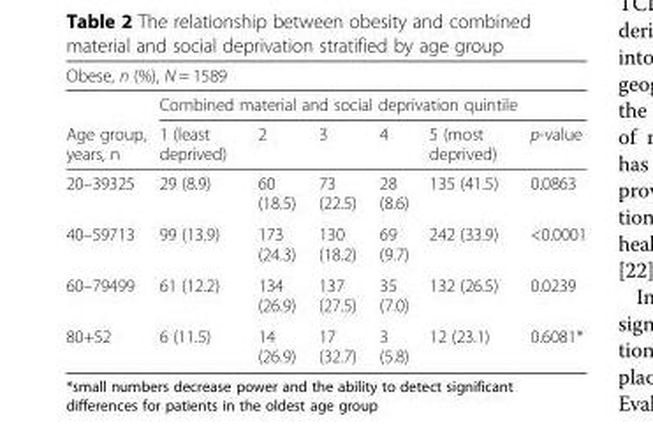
<table><thead><tr><td colspan="7">Obese, n (%), N = 1589</td></tr><tr><td rowspan="2">Age group, years, n</td><td colspan="6">Combined material and social deprivation quintile</td></tr><tr><td>1 (least deprived)</td><td>2</td><td>3</td><td>4</td><td>5 (most deprived)</td><td>p-value</td></tr></thead><tbody><tr><td>20–39325</td><td>29 (8.9)</td><td>60 (18.5)</td><td>73 (22.5)</td><td>28 (8.6)</td><td>135 (41.5)</td><td>0.0863</td></tr><tr><td>40–59713</td><td>99 (13.9)</td><td>173 (24.3)</td><td>130 (18.2)</td><td>69 (9.7)</td><td>242 (33.9)</td><td>&lt;0.0001</td></tr><tr><td>60–79499</td><td>61 (12.2)</td><td>134 (26.9)</td><td>137 (27.5)</td><td>35 (7.0)</td><td>132 (26.5)</td><td>0.0239</td></tr><tr><td>80+52</td><td>6 (11.5)</td><td>14 (26.9)</td><td>17 (32.7)</td><td>3 (5.8)</td><td>12 (23.1)</td><td>0.6081*</td></tr></tbody></table>